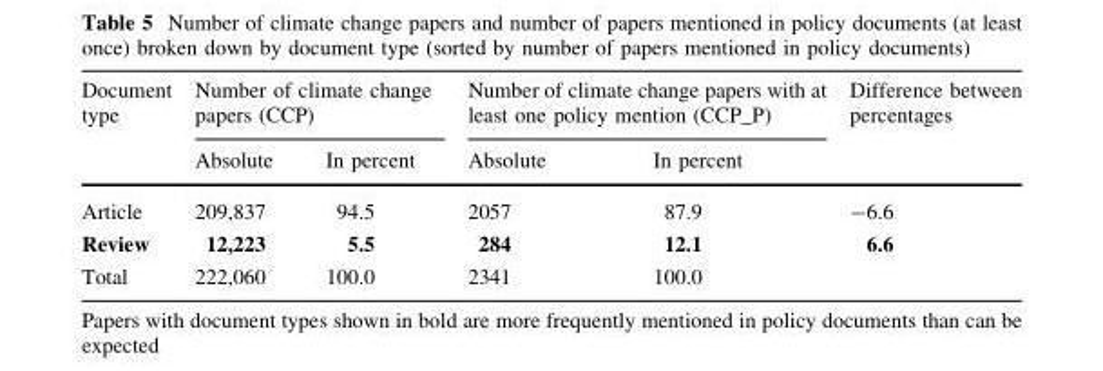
<table><thead><tr><td rowspan="2">Document type</td><td colspan="2">Number of climate change papers (CCP)</td><td colspan="2">Number of climate change papers with at least one policy mention (CCP_P)</td><td rowspan="2">Difference between percentages</td></tr><tr><td>Absolute</td><td>In percent</td><td>Absolute</td><td>In percent</td></tr></thead><tbody><tr><td>Article</td><td>209,837</td><td>94.5</td><td>2057</td><td>87.9</td><td>-6.6</td></tr><tr><td>Review</td><td>12,223</td><td>5.5</td><td>284</td><td>12.1</td><td>6.6</td></tr><tr><td>Total</td><td>222,060</td><td>100.0</td><td>2341</td><td>100.0</td><td></td></tr></tbody></table>